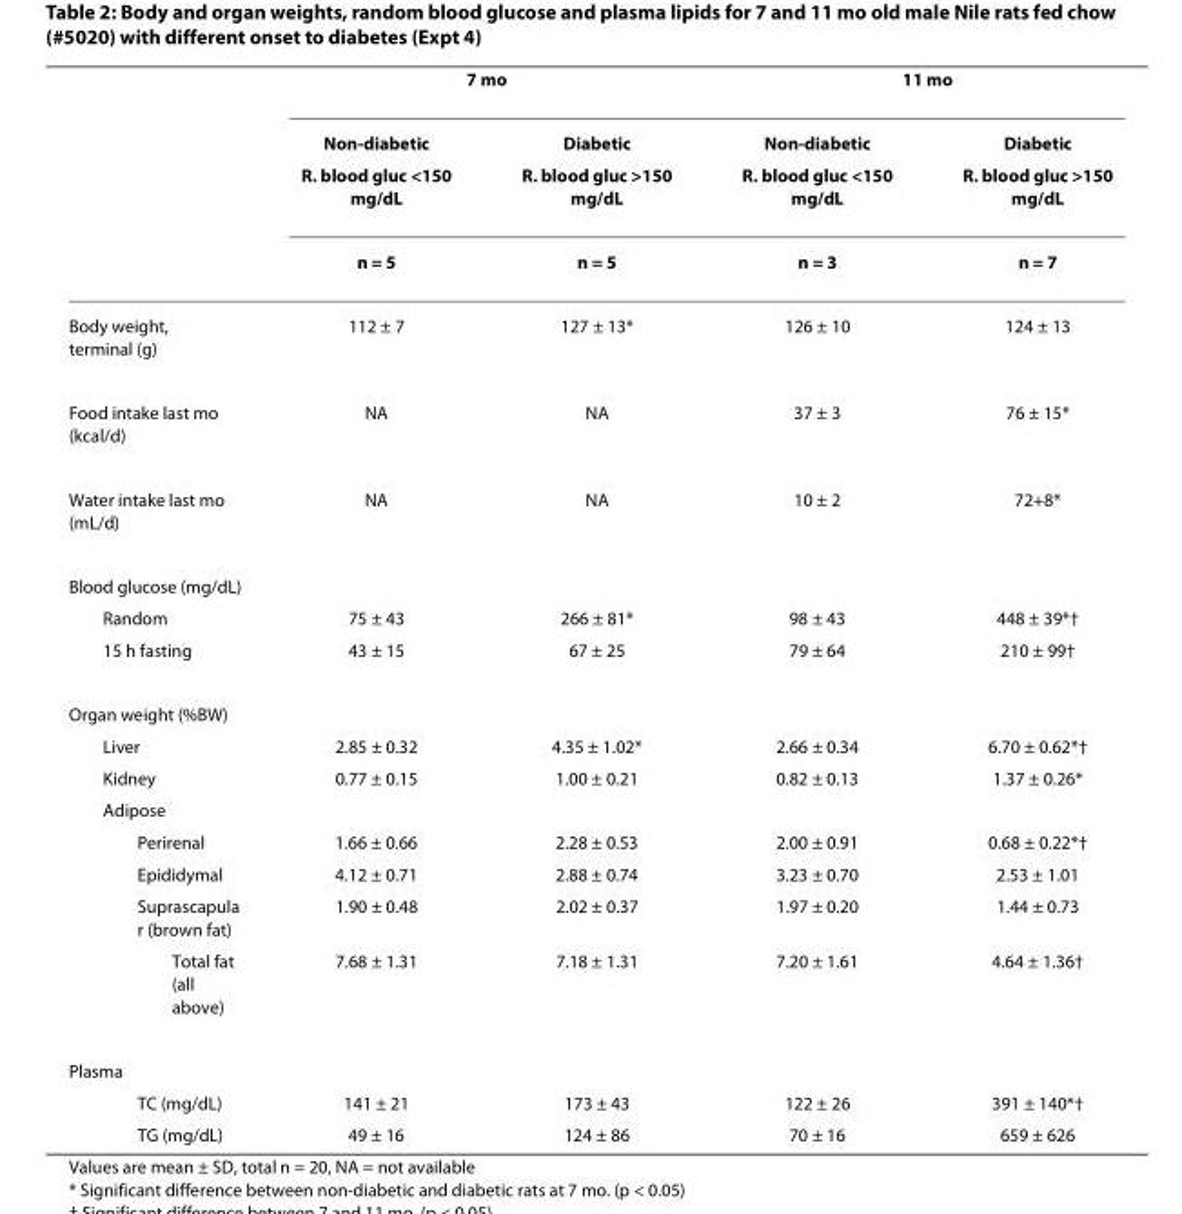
<table><thead><tr><td rowspan="4"></td><td colspan="2">7 mo</td><td colspan="2">11 mo</td></tr><tr><td rowspan="3">Non-diabetic R. blood gluc &lt;150 mg/dL n = 5</td><td rowspan="3">Diabetic R. blood gluc &gt;150 mg/dL n = 5</td><td rowspan="3">Non-diabetic R. blood gluc &lt;150 mg/dL n = 3</td><td rowspan="3">Diabetic R. blood gluc &gt;150 mg/dL n = 7</td></tr><tr></tr><tr></tr></thead><tbody><tr><td>Body weight, terminal (g)</td><td>112 ± 7</td><td>127 ± 13*</td><td>126 ± 10</td><td>124 ± 13</td></tr><tr><td>Food intake last mo (kcal/d)</td><td>NA</td><td>NA</td><td>37 ± 3</td><td>76 ± 15*</td></tr><tr><td>Water intake last mo (mL/d)</td><td>NA</td><td>NA</td><td>10 ± 2</td><td>72+8*</td></tr><tr><td colspan="5">Blood glucose (mg/dL)</td></tr><tr><td>Random</td><td>75 ± 43</td><td>266 ± 81*</td><td>98 ± 43</td><td>448 ± 39*†</td></tr><tr><td>15 h fasting</td><td>43 ± 15</td><td>67 ± 25</td><td>79 ± 64</td><td>210 ± 99†</td></tr><tr><td colspan="5">Organ weight (%BW)</td></tr><tr><td>Liver</td><td>2.85 ± 0.32</td><td>4.35 ± 1.02*</td><td>2.66 ± 0.34</td><td>6.70 ± 0.62*†</td></tr><tr><td>Kidney</td><td>0.77 ± 0.15</td><td>1.00 ± 0.21</td><td>0.82 ± 0.13</td><td>1.37 ± 0.26*</td></tr><tr><td colspan="5">Adipose</td></tr><tr><td>Perirenal</td><td>1.66 ± 0.66</td><td>2.28 ± 0.53</td><td>2.00 ± 0.91</td><td>0.68 ± 0.22*†</td></tr><tr><td>Epididymal</td><td>4.12 ± 0.71</td><td>2.88 ± 0.74</td><td>3.23 ± 0.70</td><td>2.53 ± 1.01</td></tr><tr><td>Suprascapula r (brown fat)</td><td>1.90 ± 0.48</td><td>2.02 ± 0.37</td><td>1.97 ± 0.20</td><td>1.44 ± 0.73</td></tr><tr><td>Total fat (all above)</td><td>7.68 ± 1.31</td><td>7.18 ± 1.31</td><td>7.20 ± 1.61</td><td>4.64 ± 1.36†</td></tr><tr><td colspan="5">Plasma</td></tr><tr><td>TC (mg/dL)</td><td>141 ± 21</td><td>173 ± 43</td><td>122 ± 26</td><td>391 ± 140*†</td></tr><tr><td>TG (mg/dL)</td><td>49 ± 16</td><td>124 ± 86</td><td>70 ± 16</td><td>659 ± 626</td></tr></tbody></table>